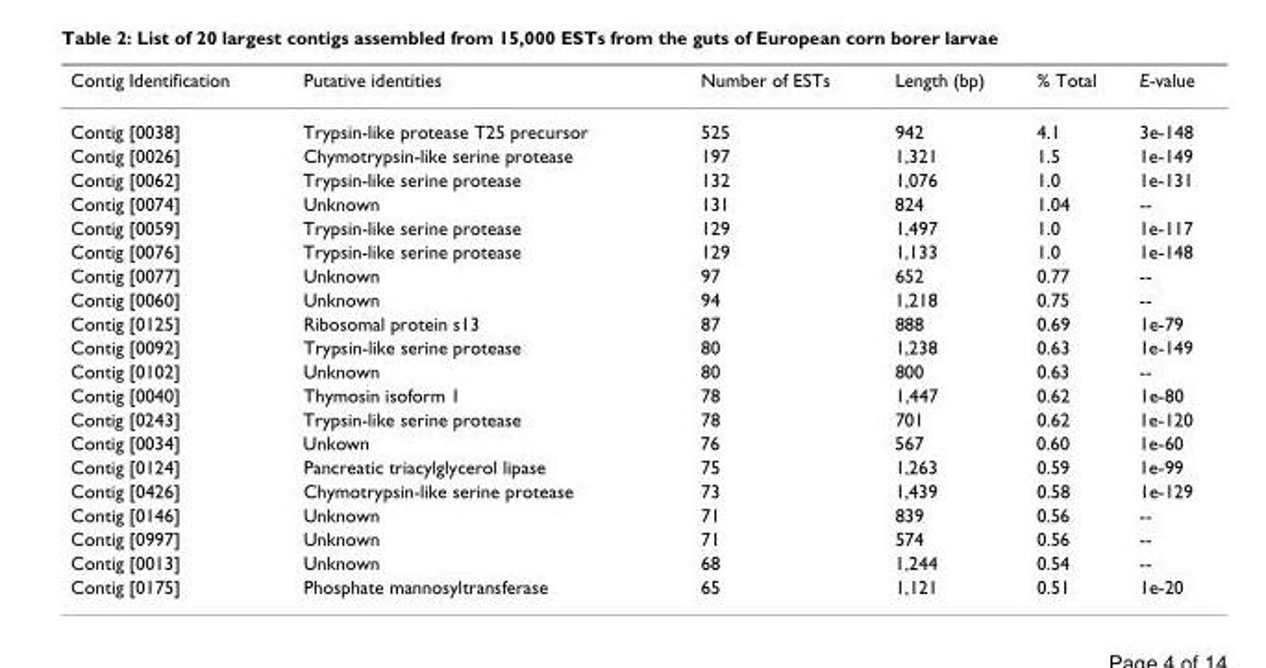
<table><thead><tr><td>Contig Identification</td><td>Putative identities</td><td>Number of ESTs</td><td>Length (bp)</td><td>% Total</td><td>E-value</td></tr></thead><tbody><tr><td>Contig [0038]</td><td>Trypsin-like protease T25 precursor</td><td>525</td><td>942</td><td>4.1</td><td>3e-148</td></tr><tr><td>Contig [0026]</td><td>Chymotrypsin-like serine protease</td><td>197</td><td>1,321</td><td>1.5</td><td>1e-149</td></tr><tr><td>Contig [0062]</td><td>Trypsin-like serine protease</td><td>132</td><td>1,076</td><td>1.0</td><td>1e-131</td></tr><tr><td>Contig [0074]</td><td>Unknown</td><td>131</td><td>824</td><td>1.04</td><td>--</td></tr><tr><td>Contig [0059]</td><td>Trypsin-like serine protease</td><td>129</td><td>1,497</td><td>1.0</td><td>1e-117</td></tr><tr><td>Contig [0076]</td><td>Trypsin-like serine protease</td><td>129</td><td>1,133</td><td>1.0</td><td>1e-148</td></tr><tr><td>Contig [0077]</td><td>Unknown</td><td>97</td><td>652</td><td>0.77</td><td>--</td></tr><tr><td>Contig [0060]</td><td>Unknown</td><td>94</td><td>1,218</td><td>0.75</td><td>--</td></tr><tr><td>Contig [0125]</td><td>Ribosomal protein s13</td><td>87</td><td>888</td><td>0.69</td><td>1e-79</td></tr><tr><td>Contig [0092]</td><td>Trypsin-like serine protease</td><td>80</td><td>1,238</td><td>0.63</td><td>1e-149</td></tr><tr><td>Contig [0102]</td><td>Unknown</td><td>80</td><td>800</td><td>0.63</td><td>--</td></tr><tr><td>Contig [0040]</td><td>Thymosin isoform 1</td><td>78</td><td>1,447</td><td>0.62</td><td>1e-80</td></tr><tr><td>Contig [0243]</td><td>Trypsin-like serine protease</td><td>78</td><td>701</td><td>0.62</td><td>1e-120</td></tr><tr><td>Contig [0034]</td><td>Unkown</td><td>76</td><td>567</td><td>0.60</td><td>1e-60</td></tr><tr><td>Contig [0124]</td><td>Pancreatic triacylglycerol lipase</td><td>75</td><td>1,263</td><td>0.59</td><td>1e-99</td></tr><tr><td>Contig [0426]</td><td>Chymotrypsin-like serine protease</td><td>73</td><td>1,439</td><td>0.58</td><td>1e-129</td></tr><tr><td>Contig [0146]</td><td>Unknown</td><td>71</td><td>839</td><td>0.56</td><td>--</td></tr><tr><td>Contig [0997]</td><td>Unknown</td><td>71</td><td>574</td><td>0.56</td><td>--</td></tr><tr><td>Contig [0013]</td><td>Unknown</td><td>68</td><td>1,244</td><td>0.54</td><td>--</td></tr><tr><td>Contig [0175]</td><td>Phosphate mannosyltransferase</td><td>65</td><td>1,121</td><td>0.51</td><td>1e-20</td></tr></tbody></table>